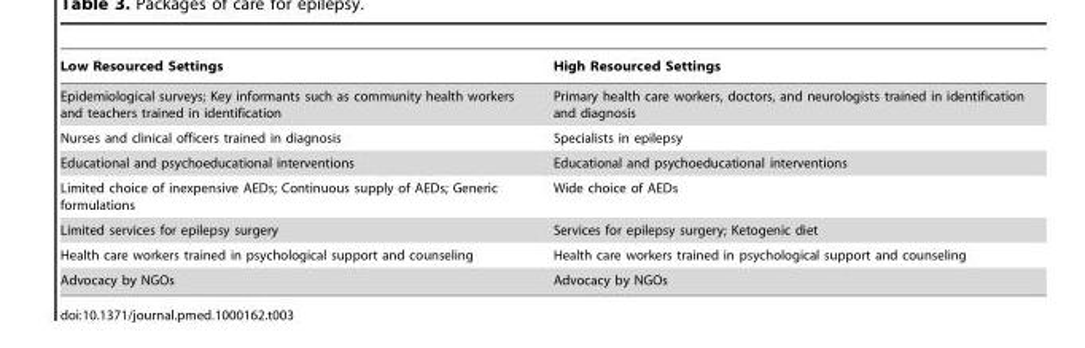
<table><thead><tr><td>Low Resourced Settings</td><td>High Resourced Settings</td></tr></thead><tbody><tr><td>Epidemiological surveys; Key informants such as community health workers and teachers trained in identification</td><td>Primary health care workers, doctors, and neurologists trained in identification and diagnosis</td></tr><tr><td>Nurses and clinical officers trained in diagnosis</td><td>Specialists in epilepsy</td></tr><tr><td>Educational and psychoeducational interventions</td><td>Educational and psychoeducational interventions</td></tr><tr><td>Limited choice of inexpensive AEDs; Continuous supply of AEDs; Generic formulations</td><td>Wide choice of AEDs</td></tr><tr><td>Limited services for epilepsy surgery</td><td>Services for epilepsy surgery; Ketogenic diet</td></tr><tr><td>Health care workers trained in psychological support and counseling</td><td>Health care workers trained in psychological support and counseling</td></tr><tr><td>Advocacy by NGOs</td><td>Advocacy by NGOs</td></tr></tbody></table>